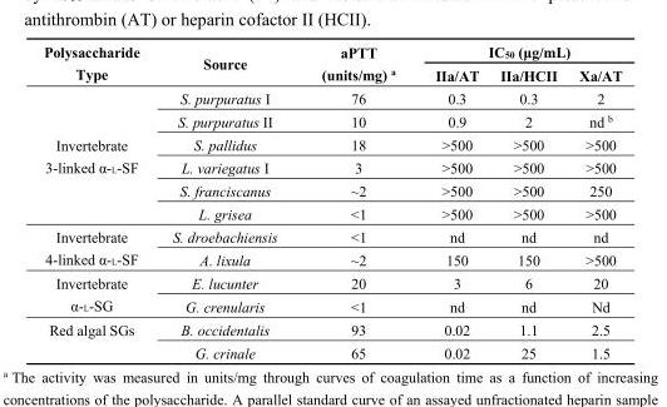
<table><thead><tr><td rowspan="2">Polysaccharide Type</td><td rowspan="2">Source</td><td rowspan="2">aPTT (units/mg) <sup>a</sup></td><td colspan="3">IC<sub>50</sub> (μg/mL)</td></tr><tr><td>IIa/AT</td><td>IIa/HCII</td><td>Xa/AT</td></tr></thead><tbody><tr><td rowspan="6">Invertebrate 3-linked α-L-SF</td><td>S. purpuratus I</td><td>76</td><td>0.3</td><td>0.3</td><td>2</td></tr><tr><td>S. purpuratus II</td><td>10</td><td>0.9</td><td>2</td><td>nd <sup>b</sup></td></tr><tr><td>S. pallidus</td><td>18</td><td>&gt;500</td><td>&gt;500</td><td>&gt;500</td></tr><tr><td>L. variegatus I</td><td>3</td><td>&gt;500</td><td>&gt;500</td><td>&gt;500</td></tr><tr><td>S. franciscanus</td><td>~2</td><td>&gt;500</td><td>&gt;500</td><td>250</td></tr><tr><td>L. grisea</td><td>&lt;1</td><td>&gt;500</td><td>&gt;500</td><td>&gt;500</td></tr><tr><td rowspan="2">Invertebrate 4-linked α-L-SF</td><td>S. droebachiensis</td><td>&lt;1</td><td>nd</td><td>nd</td><td>nd</td></tr><tr><td>A. lixula</td><td>~2</td><td>150</td><td>150</td><td>&gt;500</td></tr><tr><td rowspan="2">Invertebrate α-L-SG</td><td>E. lucunter</td><td>20</td><td>3</td><td>6</td><td>20</td></tr><tr><td>G. crenularis</td><td>&lt;1</td><td>nd</td><td>nd</td><td>Nd</td></tr><tr><td rowspan="2">Red algal SGs</td><td>B. occidentalis</td><td>93</td><td>0.02</td><td>1.1</td><td>2.5</td></tr><tr><td>G. crinale</td><td>65</td><td>0.02</td><td>25</td><td>1.5</td></tr></tbody></table>